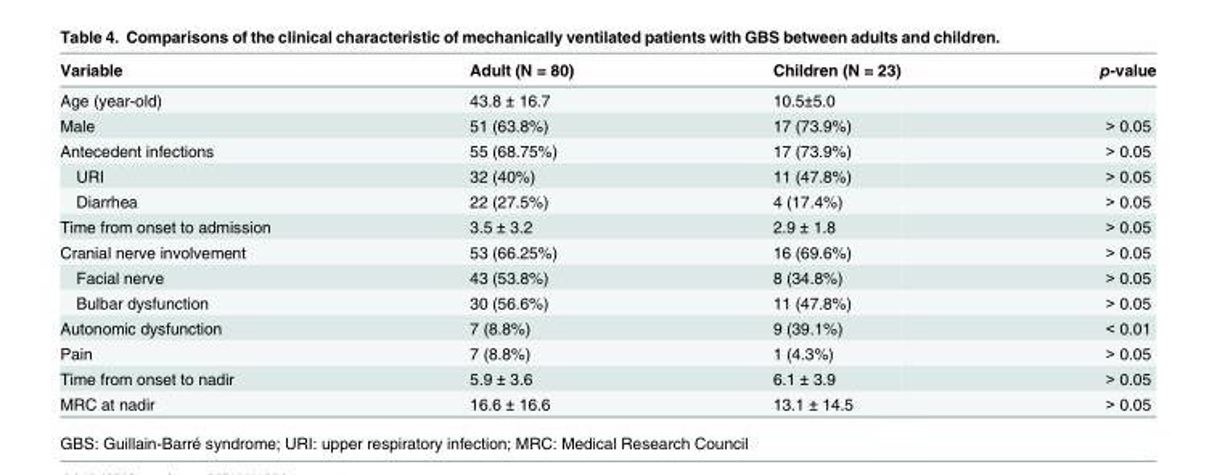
<table><thead><tr><td>Variable</td><td>Adult (N = 80)</td><td>Children (N = 23)</td><td>p-value</td></tr></thead><tbody><tr><td>Age (year-old)</td><td>43.8 ± 16.7</td><td>10.5±5.0</td><td></td></tr><tr><td>Male</td><td>51 (63.8%)</td><td>17 (73.9%)</td><td>&gt; 0.05</td></tr><tr><td>Antecedent infections</td><td>55 (68.75%)</td><td>17 (73.9%)</td><td>&gt; 0.05</td></tr><tr><td>URI</td><td>32 (40%)</td><td>11 (47.8%)</td><td>&gt; 0.05</td></tr><tr><td>Diarrhea</td><td>22 (27.5%)</td><td>4 (17.4%)</td><td>&gt; 0.05</td></tr><tr><td>Time from onset to admission</td><td>3.5 ± 3.2</td><td>2.9 ± 1.8</td><td>&gt; 0.05</td></tr><tr><td>Cranial nerve involvement</td><td>53 (66.25%)</td><td>16 (69.6%)</td><td>&gt; 0.05</td></tr><tr><td>Facial nerve</td><td>43 (53.8%)</td><td>8 (34.8%)</td><td>&gt; 0.05</td></tr><tr><td>Bulbar dysfunction</td><td>30 (56.6%)</td><td>11 (47.8%)</td><td>&gt; 0.05</td></tr><tr><td>Autonomic dysfunction</td><td>7 (8.8%)</td><td>9 (39.1%)</td><td>&lt; 0.01</td></tr><tr><td>Pain</td><td>7 (8.8%)</td><td>1 (4.3%)</td><td>&gt; 0.05</td></tr><tr><td>Time from onset to nadir</td><td>5.9 ± 3.6</td><td>6.1 ± 3.9</td><td>&gt; 0.05</td></tr><tr><td>MRC at nadir</td><td>16.6 ± 16.6</td><td>13.1 ± 14.5</td><td>&gt; 0.05</td></tr></tbody></table>